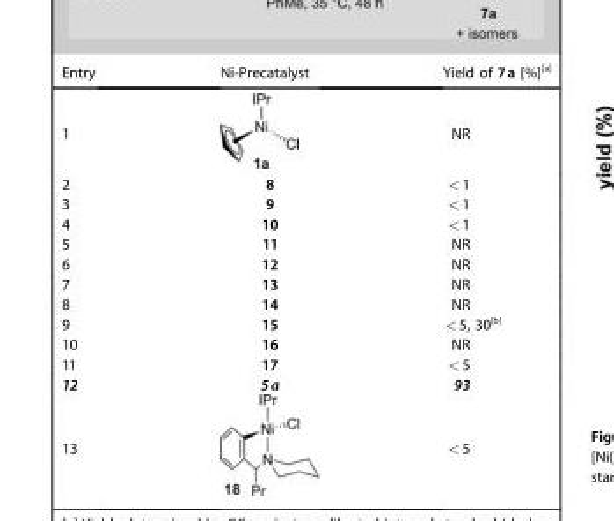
<table><thead><tr><td>Entry</td><td>Ni-Precatalyst</td><td>Yield of 7a [%]<sup>[a]</sup></td></tr></thead><tbody><tr><td>1</td><td></td><td>NR</td></tr><tr><td>2</td><td>8</td><td>&lt;1</td></tr><tr><td>3</td><td>9</td><td>&lt;1</td></tr><tr><td>4</td><td>10</td><td>&lt;1</td></tr><tr><td>5</td><td>11</td><td>NR</td></tr><tr><td>6</td><td>12</td><td>NR</td></tr><tr><td>7</td><td>13</td><td>NR</td></tr><tr><td>8</td><td>14</td><td>NR</td></tr><tr><td>9</td><td>15</td><td>&lt;5, 30<sup>[b]</sup></td></tr><tr><td>10</td><td>16</td><td>NR</td></tr><tr><td>11</td><td>17</td><td>&lt;5</td></tr><tr><td>12</td><td>5a</td><td>93</td></tr><tr><td>13</td><td></td><td>&lt;5</td></tr></tbody></table>